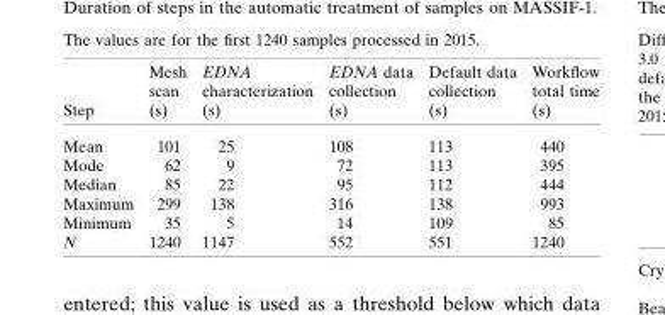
<table><thead><tr><td>Step</td><td>Mesh scan (s)</td><td>EDNA characterization (s)</td><td>EDNA data collection (s)</td><td>Default data collection (s)</td><td>Workflow total time (s)</td></tr></thead><tbody><tr><td>Mean</td><td>101</td><td>25</td><td>108</td><td>113</td><td>440</td></tr><tr><td>Mode</td><td>62</td><td>9</td><td>72</td><td>113</td><td>395</td></tr><tr><td>Median</td><td>85</td><td>22</td><td>95</td><td>112</td><td>444</td></tr><tr><td>Maximum</td><td>299</td><td>138</td><td>316</td><td>138</td><td>993</td></tr><tr><td>Minimum</td><td>35</td><td>5</td><td>14</td><td>109</td><td>85</td></tr><tr><td>N</td><td>1240</td><td>1147</td><td>552</td><td>551</td><td>1240</td></tr></tbody></table>